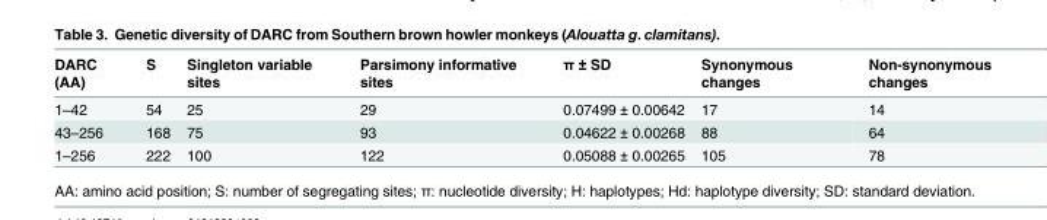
<table><thead><tr><td>DARC (AA)</td><td>S</td><td>Singleton variable sites</td><td>Parsimony informative sites</td><td>π ± SD</td><td>Synonymous changes</td><td>Non-synonymous changes</td></tr></thead><tbody><tr><td>1–42</td><td>54</td><td>25</td><td>29</td><td>0.07499 ± 0.00642</td><td>17</td><td>14</td></tr><tr><td>43–256</td><td>168</td><td>75</td><td>93</td><td>0.04622 ± 0.00268</td><td>88</td><td>64</td></tr><tr><td>1–256</td><td>222</td><td>100</td><td>122</td><td>0.05088 ± 0.00265</td><td>105</td><td>78</td></tr></tbody></table>